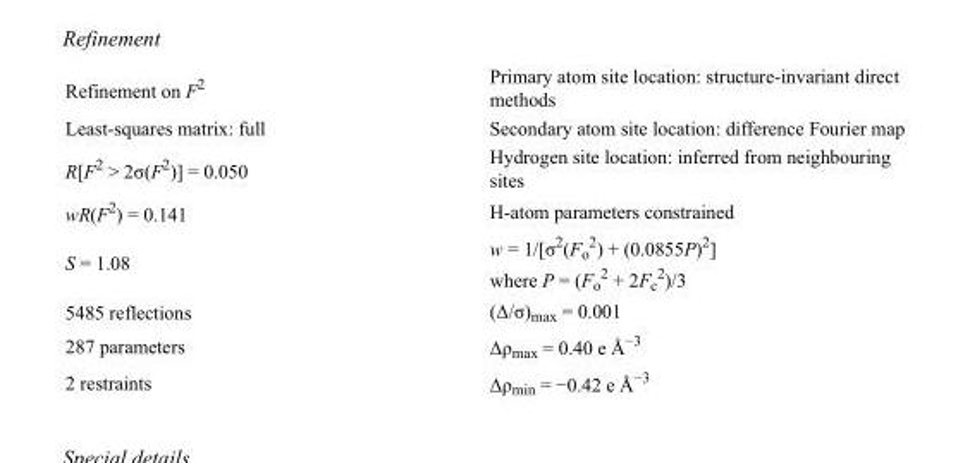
<table><tbody><tr><td>Refinement on F<sup>2</sup></td><td>Primary atom site location: structure-invariant direct methods</td></tr><tr><td>Least-squares matrix: full</td><td>Secondary atom site location: difference Fourier map</td></tr><tr><td>R[F<sup>2</sup> &gt; 2σ(F<sup>2</sup>)] = 0.050</td><td>Hydrogen site location: inferred from neighbouring sites</td></tr><tr><td>wR(F<sup>2</sup>) = 0.141</td><td>H-atom parameters constrained</td></tr><tr><td>S = 1.08</td><td>w = 1/[σ<sup>2</sup>(F<sub>o</sub> <sup>2</sup>) + (0.0855P)<sup>2</sup>] where P = (F<sub>o</sub> <sup>2</sup> + 2F<sub>c</sub> <sup>2</sup>)/3</td></tr><tr><td>5485 reflections</td><td>(Δ/σ)<sub>max</sub> = 0.001</td></tr><tr><td>287 parameters</td><td>Δρ<sub>max</sub> = 0.40 e Å<sup>−3</sup></td></tr><tr><td>2 restraints</td><td>Δρ<sub>min</sub> = −0.42 e Å<sup>−3</sup></td></tr></tbody></table>